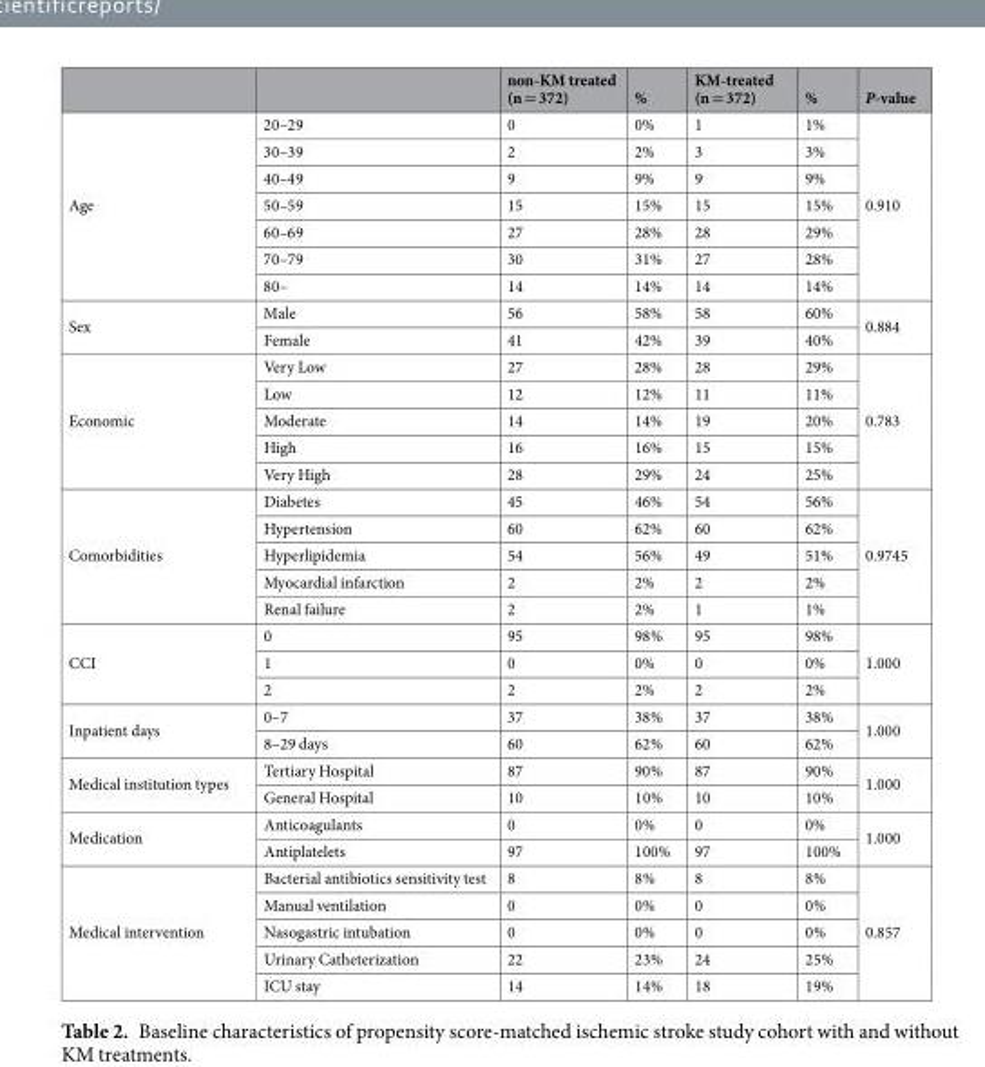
<table><thead><tr><td></td><td></td><td>non-KM treated (n = 372)</td><td>%</td><td>KM-treated (n = 372)</td><td>%</td><td>P-value</td></tr></thead><tbody><tr><td rowspan="7">Age</td><td>20–29</td><td>0</td><td>0%</td><td>1</td><td>1%</td><td rowspan="7">0.910</td></tr><tr><td>30–39</td><td>2</td><td>2%</td><td>3</td><td>3%</td></tr><tr><td>40–49</td><td>9</td><td>9%</td><td>9</td><td>9%</td></tr><tr><td>50–59</td><td>15</td><td>15%</td><td>15</td><td>15%</td></tr><tr><td>60–69</td><td>27</td><td>28%</td><td>28</td><td>29%</td></tr><tr><td>70–79</td><td>30</td><td>31%</td><td>27</td><td>28%</td></tr><tr><td>80–</td><td>14</td><td>14%</td><td>14</td><td>14%</td></tr><tr><td rowspan="2">Sex</td><td>Male</td><td>56</td><td>58%</td><td>58</td><td>60%</td><td rowspan="2">0.884</td></tr><tr><td>Female</td><td>41</td><td>42%</td><td>39</td><td>40%</td></tr><tr><td rowspan="5">Economic</td><td>Very Low</td><td>27</td><td>28%</td><td>28</td><td>29%</td><td rowspan="5">0.783</td></tr><tr><td>Low</td><td>12</td><td>12%</td><td>11</td><td>11%</td></tr><tr><td>Moderate</td><td>14</td><td>14%</td><td>19</td><td>20%</td></tr><tr><td>High</td><td>16</td><td>16%</td><td>15</td><td>15%</td></tr><tr><td>Very High</td><td>28</td><td>29%</td><td>24</td><td>25%</td></tr><tr><td rowspan="5">Comorbidities</td><td>Diabetes</td><td>45</td><td>46%</td><td>54</td><td>56%</td><td rowspan="5">0.9745</td></tr><tr><td>Hypertension</td><td>60</td><td>62%</td><td>60</td><td>62%</td></tr><tr><td>Hyperlipidemia</td><td>54</td><td>56%</td><td>49</td><td>51%</td></tr><tr><td>Myocardial infarction</td><td>2</td><td>2%</td><td>2</td><td>2%</td></tr><tr><td>Renal failure</td><td>2</td><td>2%</td><td>1</td><td>1%</td></tr><tr><td rowspan="3">CCI</td><td>0</td><td>95</td><td>98%</td><td>95</td><td>98%</td><td rowspan="3">1.000</td></tr><tr><td>1</td><td>0</td><td>0%</td><td>0</td><td>0%</td></tr><tr><td>2</td><td>2</td><td>2%</td><td>2</td><td>2%</td></tr><tr><td rowspan="2">Inpatient days</td><td>0–7</td><td>37</td><td>38%</td><td>37</td><td>38%</td><td rowspan="2">1.000</td></tr><tr><td>8–29 days</td><td>60</td><td>62%</td><td>60</td><td>62%</td></tr><tr><td rowspan="2">Medical institution types</td><td>Tertiary Hospital</td><td>87</td><td>90%</td><td>87</td><td>90%</td><td rowspan="2">1.000</td></tr><tr><td>General Hospital</td><td>10</td><td>10%</td><td>10</td><td>10%</td></tr><tr><td rowspan="2">Medication</td><td>Anticoagulants</td><td>0</td><td>0%</td><td>0</td><td>0%</td><td rowspan="2">1.000</td></tr><tr><td>Antiplatelets</td><td>97</td><td>100%</td><td>97</td><td>100%</td></tr><tr><td rowspan="5">Medical intervention</td><td>Bacterial antibiotics sensitivity test</td><td>8</td><td>8%</td><td>8</td><td>8%</td><td rowspan="5">0.857</td></tr><tr><td>Manual ventilation</td><td>0</td><td>0%</td><td>0</td><td>0%</td></tr><tr><td>Nasogastric intubation</td><td>0</td><td>0%</td><td>0</td><td>0%</td></tr><tr><td>Urinary Catheterization</td><td>22</td><td>23%</td><td>24</td><td>25%</td></tr><tr><td>ICU stay</td><td>14</td><td>14%</td><td>18</td><td>19%</td></tr></tbody></table>